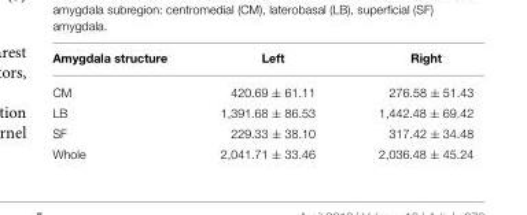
<table><thead><tr><td>Amygdala structure</td><td>Left</td><td>Right</td></tr></thead><tbody><tr><td>CM</td><td>420.69 ± 61.11</td><td>276.58 ± 51.43</td></tr><tr><td>LB</td><td>1,391.68 ± 86.53</td><td>1,442.48 ± 69.42</td></tr><tr><td>SF</td><td>229.33 ± 38.10</td><td>317.42 ± 34.48</td></tr><tr><td>Whole</td><td>2,041.71 ± 33.46</td><td>2,036.48 ± 45.24</td></tr></tbody></table>